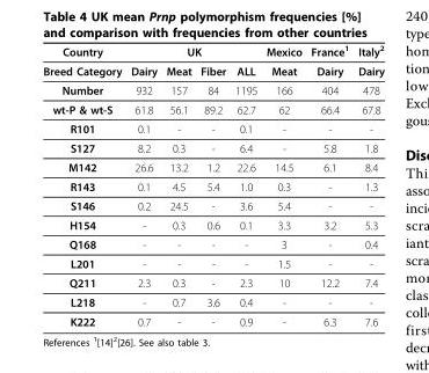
<table><thead><tr><td rowspan="2">Country Breed Category</td><td colspan="4">UK</td><td rowspan="2">Mexico Meat</td><td rowspan="2">France1 Dairy</td><td rowspan="2">Italy2 Dairy</td></tr><tr><td>Dairy</td><td>Meat</td><td>Fiber</td><td>ALL</td></tr></thead><tbody><tr><td>Number</td><td>932</td><td>157</td><td>84</td><td>1195</td><td>166</td><td>404</td><td>478</td></tr><tr><td>wt-P &amp; wt-S</td><td>61.8</td><td>56.1</td><td>89.2</td><td>62.7</td><td>62</td><td>66.4</td><td>67.8</td></tr><tr><td>R101</td><td>0.1</td><td>-</td><td>-</td><td>0.1</td><td>-</td><td>-</td><td>-</td></tr><tr><td>S127</td><td>8.2</td><td>0.3</td><td>-</td><td>6.4</td><td>-</td><td>5.8</td><td>1.8</td></tr><tr><td>M142</td><td>26.6</td><td>13.2</td><td>1.2</td><td>22.6</td><td>14.5</td><td>6.1</td><td>8.4</td></tr><tr><td>R143</td><td>0.1</td><td>4.5</td><td>5.4</td><td>1.0</td><td>0.3</td><td>-</td><td>1.3</td></tr><tr><td>S146</td><td>0.2</td><td>24.5</td><td>-</td><td>3.6</td><td>5.4</td><td>-</td><td>-</td></tr><tr><td>H154</td><td>-</td><td>0.3</td><td>0.6</td><td>0.1</td><td>3.3</td><td>3.2</td><td>5.3</td></tr><tr><td>Q168</td><td>-</td><td>-</td><td>-</td><td>-</td><td>3</td><td>-</td><td>0.4</td></tr><tr><td>L201</td><td>-</td><td>-</td><td>-</td><td>-</td><td>1.5</td><td>-</td><td>-</td></tr><tr><td>Q211</td><td>2.3</td><td>0.3</td><td>-</td><td>2.3</td><td>10</td><td>12.2</td><td>7.4</td></tr><tr><td>L218</td><td>-</td><td>0.7</td><td>3.6</td><td>0.4</td><td>-</td><td>-</td><td>-</td></tr><tr><td>K222</td><td>0.7</td><td>-</td><td>-</td><td>0.9</td><td>-</td><td>6.3</td><td>7.6</td></tr></tbody></table>